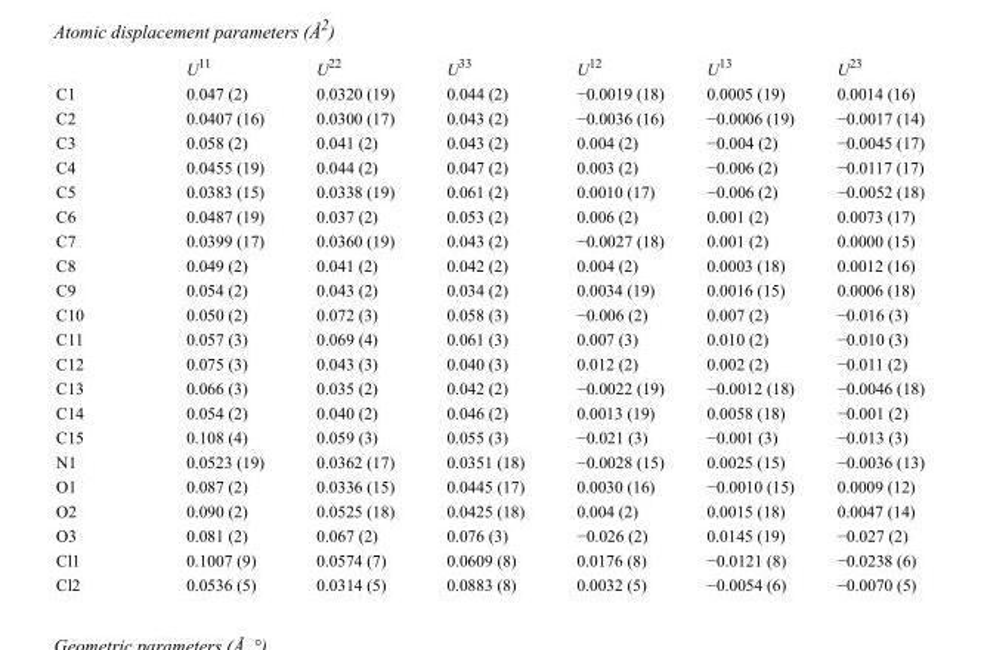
<table><thead><tr><td></td><td>U<sup>11</sup></td><td>U<sup>22</sup></td><td>U<sup>33</sup></td><td>U<sup>12</sup></td><td>U<sup>13</sup></td><td>U<sup>23</sup></td></tr></thead><tbody><tr><td>C1</td><td>0.047 (2)</td><td>0.0320 (19)</td><td>0.044 (2)</td><td>−0.0019 (18)</td><td>0.0005 (19)</td><td>0.0014 (16)</td></tr><tr><td>C2</td><td>0.0407 (16)</td><td>0.0300 (17)</td><td>0.043 (2)</td><td>−0.0036 (16)</td><td>−0.0006 (19)</td><td>−0.0017 (14)</td></tr><tr><td>C3</td><td>0.058 (2)</td><td>0.041 (2)</td><td>0.043 (2)</td><td>0.004 (2)</td><td>−0.004 (2)</td><td>−0.0045 (17)</td></tr><tr><td>C4</td><td>0.0455 (19)</td><td>0.044 (2)</td><td>0.047 (2)</td><td>0.003 (2)</td><td>−0.006 (2)</td><td>−0.0117 (17)</td></tr><tr><td>C5</td><td>0.0383 (15)</td><td>0.0338 (19)</td><td>0.061 (2)</td><td>0.0010 (17)</td><td>−0.006 (2)</td><td>−0.0052 (18)</td></tr><tr><td>C6</td><td>0.0487 (19)</td><td>0.037 (2)</td><td>0.053 (2)</td><td>0.006 (2)</td><td>0.001 (2)</td><td>0.0073 (17)</td></tr><tr><td>C7</td><td>0.0399 (17)</td><td>0.0360 (19)</td><td>0.043 (2)</td><td>−0.0027 (18)</td><td>0.001 (2)</td><td>0.0000 (15)</td></tr><tr><td>C8</td><td>0.049 (2)</td><td>0.041 (2)</td><td>0.042 (2)</td><td>0.004 (2)</td><td>0.0003 (18)</td><td>0.0012 (16)</td></tr><tr><td>C9</td><td>0.054 (2)</td><td>0.043 (2)</td><td>0.034 (2)</td><td>0.0034 (19)</td><td>0.0016 (15)</td><td>0.0006 (18)</td></tr><tr><td>C10</td><td>0.050 (2)</td><td>0.072 (3)</td><td>0.058 (3)</td><td>−0.006 (2)</td><td>0.007 (2)</td><td>−0.016 (3)</td></tr><tr><td>C11</td><td>0.057 (3)</td><td>0.069 (4)</td><td>0.061 (3)</td><td>0.007 (3)</td><td>0.010 (2)</td><td>−0.010 (3)</td></tr><tr><td>C12</td><td>0.075 (3)</td><td>0.043 (3)</td><td>0.040 (3)</td><td>0.012 (2)</td><td>0.002 (2)</td><td>−0.011 (2)</td></tr><tr><td>C13</td><td>0.066 (3)</td><td>0.035 (2)</td><td>0.042 (2)</td><td>−0.0022 (19)</td><td>−0.0012 (18)</td><td>−0.0046 (18)</td></tr><tr><td>C14</td><td>0.054 (2)</td><td>0.040 (2)</td><td>0.046 (2)</td><td>0.0013 (19)</td><td>0.0058 (18)</td><td>−0.001 (2)</td></tr><tr><td>C15</td><td>0.108 (4)</td><td>0.059 (3)</td><td>0.055 (3)</td><td>−0.021 (3)</td><td>−0.001 (3)</td><td>−0.013 (3)</td></tr><tr><td>N1</td><td>0.0523 (19)</td><td>0.0362 (17)</td><td>0.0351 (18)</td><td>−0.0028 (15)</td><td>0.0025 (15)</td><td>−0.0036 (13)</td></tr><tr><td>O1</td><td>0.087 (2)</td><td>0.0336 (15)</td><td>0.0445 (17)</td><td>0.0030 (16)</td><td>−0.0010 (15)</td><td>0.0009 (12)</td></tr><tr><td>O2</td><td>0.090 (2)</td><td>0.0525 (18)</td><td>0.0425 (18)</td><td>0.004 (2)</td><td>0.0015 (18)</td><td>0.0047 (14)</td></tr><tr><td>O3</td><td>0.081 (2)</td><td>0.067 (2)</td><td>0.076 (3)</td><td>−0.026 (2)</td><td>0.0145 (19)</td><td>−0.027 (2)</td></tr><tr><td>Cl1</td><td>0.1007 (9)</td><td>0.0574 (7)</td><td>0.0609 (8)</td><td>0.0176 (8)</td><td>−0.0121 (8)</td><td>−0.0238 (6)</td></tr><tr><td>Cl2</td><td>0.0536 (5)</td><td>0.0314 (5)</td><td>0.0883 (8)</td><td>0.0032 (5)</td><td>−0.0054 (6)</td><td>−0.0070 (5)</td></tr></tbody></table>